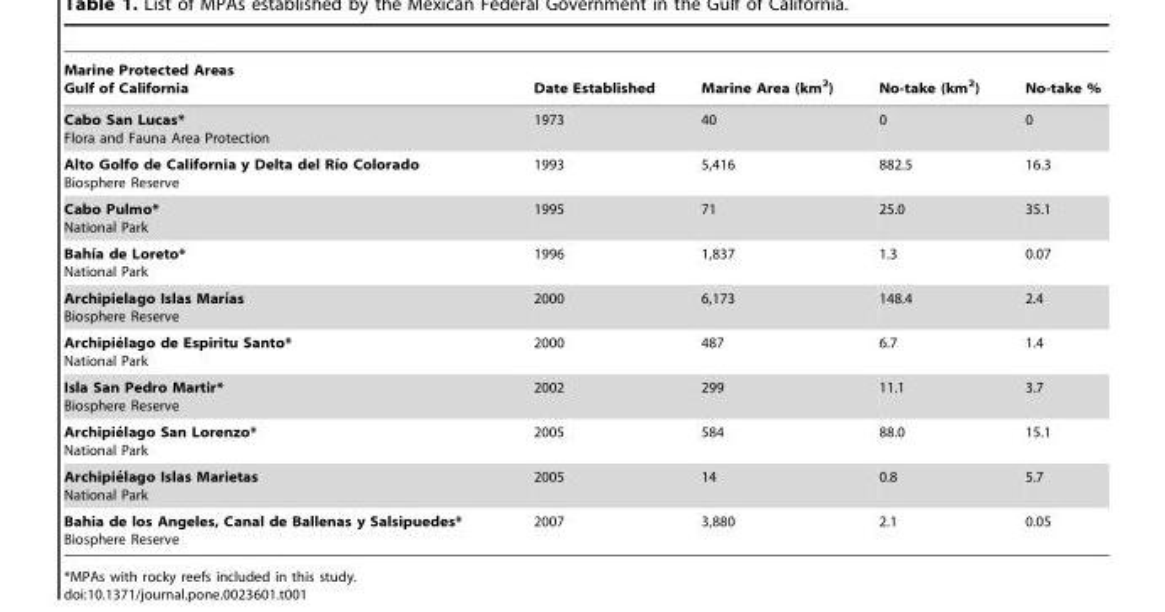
<table><thead><tr><td>Marine Protected Areas Gulf of California</td><td>Date Established</td><td>Marine Area (km<sup>2</sup>)</td><td>No-take (km<sup>2</sup>)</td><td>No-take %</td></tr></thead><tbody><tr><td>Cabo San Lucas* Flora and Fauna Area Protection</td><td>1973</td><td>40</td><td>0</td><td>0</td></tr><tr><td>Alto Golfo de California y Delta del Rı´o Colorado Biosphere Reserve</td><td>1993</td><td>5,416</td><td>882.5</td><td>16.3</td></tr><tr><td>Cabo Pulmo* National Park</td><td>1995</td><td>71</td><td>25.0</td><td>35.1</td></tr><tr><td>Bahı´a de Loreto* National Park</td><td>1996</td><td>1,837</td><td>1.3</td><td>0.07</td></tr><tr><td>Archipielago Islas Marı´as Biosphere Reserve</td><td>2000</td><td>6,173</td><td>148.4</td><td>2.4</td></tr><tr><td>Archipie´lago de Espiritu Santo* National Park</td><td>2000</td><td>487</td><td>6.7</td><td>1.4</td></tr><tr><td>Isla San Pedro Martir* Biosphere Reserve</td><td>2002</td><td>299</td><td>11.1</td><td>3.7</td></tr><tr><td>Archipie´lago San Lorenzo* National Park</td><td>2005</td><td>584</td><td>88.0</td><td>15.1</td></tr><tr><td>Archipie´lago Islas Marietas National Park</td><td>2005</td><td>14</td><td>0.8</td><td>5.7</td></tr><tr><td>Bahia de los Angeles, Canal de Ballenas y Salsipuedes* Biosphere Reserve</td><td>2007</td><td>3,880</td><td>2.1</td><td>0.05</td></tr></tbody></table>